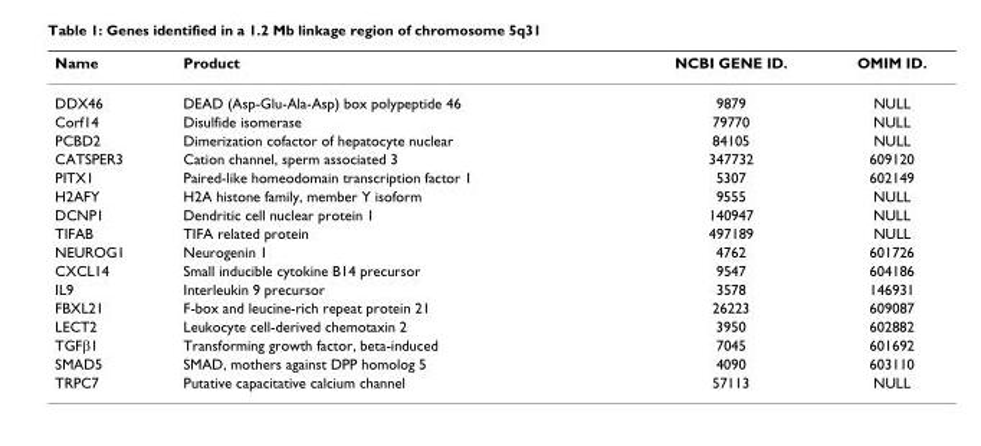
<table><thead><tr><td>Name</td><td>Product</td><td>NCBI GENE ID.</td><td>OMIM ID.</td></tr></thead><tbody><tr><td>DDX46</td><td>DEAD (Asp-Glu-Ala-Asp) box polypeptide 46</td><td>9879</td><td>NULL</td></tr><tr><td>Corf14</td><td>Disulfide isomerase</td><td>79770</td><td>NULL</td></tr><tr><td>PCBD2</td><td>Dimerization cofactor of hepatocyte nuclear</td><td>84105</td><td>NULL</td></tr><tr><td>CATSPER3</td><td>Cation channel, sperm associated 3</td><td>347732</td><td>609120</td></tr><tr><td>PITX1</td><td>Paired-like homeodomain transcription factor 1</td><td>5307</td><td>602149</td></tr><tr><td>H2AFY</td><td>H2A histone family, member Y isoform</td><td>9555</td><td>NULL</td></tr><tr><td>DCNP1</td><td>Dendritic cell nuclear protein 1</td><td>140947</td><td>NULL</td></tr><tr><td>TIFAB</td><td>TIFA related protein</td><td>497189</td><td>NULL</td></tr><tr><td>NEUROG1</td><td>Neurogenin 1</td><td>4762</td><td>601726</td></tr><tr><td>CXCL14</td><td>Small inducible cytokine B14 precursor</td><td>9547</td><td>604186</td></tr><tr><td>IL9</td><td>Interleukin 9 precursor</td><td>3578</td><td>146931</td></tr><tr><td>FBXL21</td><td>F-box and leucine-rich repeat protein 21</td><td>26223</td><td>609087</td></tr><tr><td>LECT2</td><td>Leukocyte cell-derived chemotaxin 2</td><td>3950</td><td>602882</td></tr><tr><td>TGFβ1</td><td>Transforming growth factor, beta-induced</td><td>7045</td><td>601692</td></tr><tr><td>SMAD5</td><td>SMAD, mothers against DPP homolog 5</td><td>4090</td><td>603110</td></tr><tr><td>TRPC7</td><td>Putative capacitative calcium channel</td><td>57113</td><td>NULL</td></tr></tbody></table>